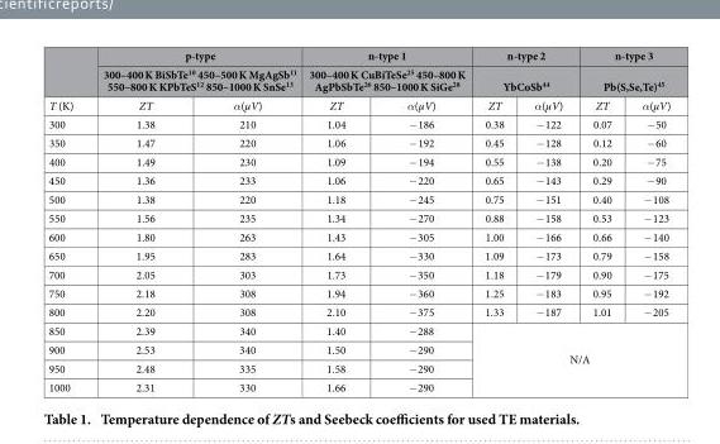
<table><thead><tr><td rowspan="3">T (K)</td><td rowspan="2" colspan="2">p-type 300–400 K BiSbTe<sup>10</sup> 450–500 K MgAgSb<sup>11</sup> 550–800 K KPbTeS<sup>12</sup> 850–1000 K SnSe<sup>13</sup></td><td rowspan="2" colspan="2">n-type 1 300–400 K CuBiTeSe<sup>25</sup> 450–800 K AgPbSbTe<sup>26</sup> 850–1000 K SiGe<sup>28</sup></td><td rowspan="2" colspan="2">n-type 2 YbCoSb<sup>44</sup></td><td rowspan="2" colspan="2">n-type 3 Pb(S,Se,Te)<sup>45</sup></td></tr><tr></tr><tr><td>ZT</td><td>α(μV)</td><td>ZT</td><td>α(μV)</td><td>ZT</td><td>α(μV)</td><td>ZT</td><td>α(μV)</td></tr></thead><tbody><tr><td>300</td><td>1.38</td><td>210</td><td>1.04</td><td>− 186</td><td>0.38</td><td>− 122</td><td>0.07</td><td>− 50</td></tr><tr><td>350</td><td>1.47</td><td>220</td><td>1.06</td><td>− 192</td><td>0.45</td><td>− 128</td><td>0.12</td><td>− 60</td></tr><tr><td>400</td><td>1.49</td><td>230</td><td>1.09</td><td>− 194</td><td>0.55</td><td>− 138</td><td>0.20</td><td>− 75</td></tr><tr><td>450</td><td>1.36</td><td>233</td><td>1.06</td><td>− 220</td><td>0.65</td><td>− 143</td><td>0.29</td><td>− 90</td></tr><tr><td>500</td><td>1.38</td><td>220</td><td>1.18</td><td>− 245</td><td>0.75</td><td>− 151</td><td>0.40</td><td>− 108</td></tr><tr><td>550</td><td>1.56</td><td>235</td><td>1.34</td><td>− 270</td><td>0.88</td><td>− 158</td><td>0.53</td><td>− 123</td></tr><tr><td>600</td><td>1.80</td><td>263</td><td>1.43</td><td>− 305</td><td>1.00</td><td>− 166</td><td>0.66</td><td>− 140</td></tr><tr><td>650</td><td>1.95</td><td>283</td><td>1.64</td><td>− 330</td><td>1.09</td><td>− 173</td><td>0.79</td><td>− 158</td></tr><tr><td>700</td><td>2.05</td><td>303</td><td>1.73</td><td>− 350</td><td>1.18</td><td>− 179</td><td>0.90</td><td>− 175</td></tr><tr><td>750</td><td>2.18</td><td>308</td><td>1.94</td><td>− 360</td><td>1.25</td><td>− 183</td><td>0.95</td><td>− 192</td></tr><tr><td>800</td><td>2.20</td><td>308</td><td>2.10</td><td>− 375</td><td>1.33</td><td>− 187</td><td>1.01</td><td>− 205</td></tr><tr><td>850</td><td>2.39</td><td>340</td><td>1.40</td><td>− 288</td><td rowspan="4" colspan="4">N/A</td></tr><tr><td>900</td><td>2.53</td><td>340</td><td>1.50</td><td>− 290</td></tr><tr><td>950</td><td>2.48</td><td>335</td><td>1.58</td><td>− 290</td></tr><tr><td>1000</td><td>2.31</td><td>330</td><td>1.66</td><td>− 290</td></tr></tbody></table>